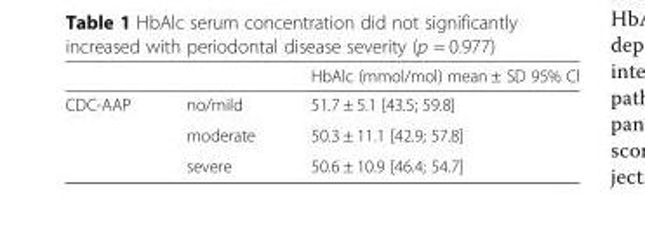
<table><thead><tr><td></td><td></td><td>HbAlc (mmol/mol) mean ± SD 95% Cl</td></tr></thead><tbody><tr><td rowspan="3">CDC-AAP</td><td>no/mild</td><td>51.7 ± 5.1 [43.5; 59.8]</td></tr><tr><td>moderate</td><td>50.3 ± 11.1 [42.9; 57.8]</td></tr><tr><td>severe</td><td>50.6 ± 10.9 [46.4; 54.7]</td></tr></tbody></table>